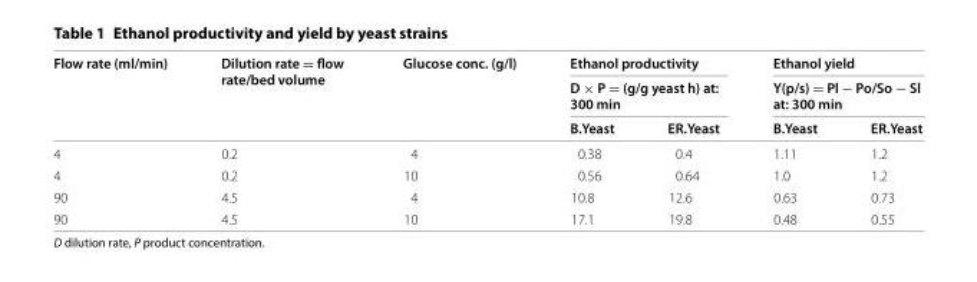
<table><thead><tr><td rowspan="3">Flow rate (ml/min)</td><td rowspan="3">Dilution rate = flow rate/bed volume</td><td rowspan="3">Glucose conc. (g/l)</td><td rowspan="2" colspan="2">Ethanol productivity D × P = (g/g yeast h) at: 300 min</td><td rowspan="2" colspan="2">Ethanol yield Y(p/s) = Pl − Po/So − Sl at: 300 min</td></tr><tr></tr><tr><td>B.Yeast</td><td>ER.Yeast</td><td>B.Yeast</td><td>ER.Yeast</td></tr></thead><tbody><tr><td>4</td><td>0.2</td><td>4</td><td>0.38</td><td>0.4</td><td>1.11</td><td>1.2</td></tr><tr><td>4</td><td>0.2</td><td>10</td><td>0.56</td><td>0.64</td><td>1.0</td><td>1.2</td></tr><tr><td>90</td><td>4.5</td><td>4</td><td>10.8</td><td>12.6</td><td>0.63</td><td>0.73</td></tr><tr><td>90</td><td>4.5</td><td>10</td><td>17.1</td><td>19.8</td><td>0.48</td><td>0.55</td></tr></tbody></table>